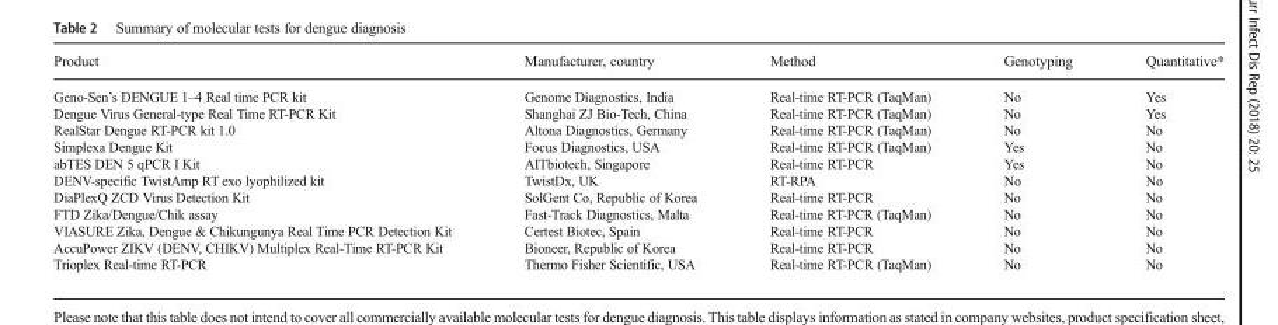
<table><thead><tr><td>Product</td><td>Manufacturer, country</td><td>Method</td><td>Genotyping</td><td>Quantitative*</td></tr></thead><tbody><tr><td>Geno-Sen’s DENGUE 1–4 Real time PCR kit</td><td>Genome Diagnostics, India</td><td>Real-time RT-PCR (TaqMan)</td><td>No</td><td>Yes</td></tr><tr><td>Dengue Virus General-type Real Time RT-PCR Kit</td><td>Shanghai ZJ Bio-Tech, China</td><td>Real-time RT-PCR (TaqMan)</td><td>No</td><td>Yes</td></tr><tr><td>RealStar Dengue RT-PCR kit 1.0</td><td>Altona Diagnostics, Germany</td><td>Real-time RT-PCR (TaqMan)</td><td>No</td><td>No</td></tr><tr><td>Simplexa Dengue Kit</td><td>Focus Diagnostics, USA</td><td>Real-time RT-PCR (TaqMan)</td><td>Yes</td><td>No</td></tr><tr><td>abTES DEN 5 qPCR I Kit</td><td>AITbiotech, Singapore</td><td>Real-time RT-PCR</td><td>Yes</td><td>No</td></tr><tr><td>DENV-specific TwistAmp RT exo lyophilized kit</td><td>TwistDx, UK</td><td>RT-RPA</td><td>No</td><td>No</td></tr><tr><td>DiaPlexQ ZCD Virus Detection Kit</td><td>SolGent Co, Republic of Korea</td><td>Real-time RT-PCR</td><td>No</td><td>No</td></tr><tr><td>FTD Zika/Dengue/Chik assay</td><td>Fast-Track Diagnostics, Malta</td><td>Real-time RT-PCR (TaqMan)</td><td>No</td><td>No</td></tr><tr><td>VIASURE Zika, Dengue &amp; Chikungunya Real Time PCR Detection Kit</td><td>Certest Biotec, Spain</td><td>Real-time RT-PCR</td><td>No</td><td>No</td></tr><tr><td>AccuPower ZIKV (DENV, CHIKV) Multiplex Real-Time RT-PCR Kit</td><td>Bioneer, Republic of Korea</td><td>Real-time RT-PCR</td><td>No</td><td>No</td></tr><tr><td>Trioplex Real-time RT-PCR</td><td>Thermo Fisher Scientific, USA</td><td>Real-time RT-PCR (TaqMan)</td><td>No</td><td>No</td></tr></tbody></table>